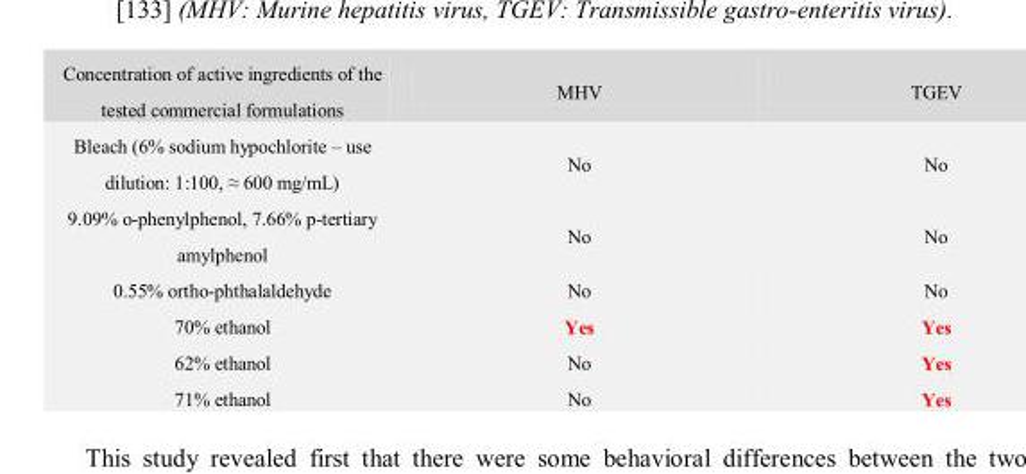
<table><thead><tr><td>Concentration of active ingredients of the tested commercial formulations</td><td>MHV</td><td>TGEV</td></tr></thead><tbody><tr><td>Bleach (6% sodium hypochlorite – use dilution: 1:100, ≈ 600 mg/mL)</td><td>No</td><td>No</td></tr><tr><td>9.09% o-phenylphenol, 7.66% p-tertiary amylphenol</td><td>No</td><td>No</td></tr><tr><td>0.55% ortho-phthalaldehyde</td><td>No</td><td>No</td></tr><tr><td>70% ethanol</td><td>Yes</td><td>Yes</td></tr><tr><td>62% ethanol</td><td>No</td><td>Yes</td></tr><tr><td>71% ethanol</td><td>No</td><td>Yes</td></tr></tbody></table>